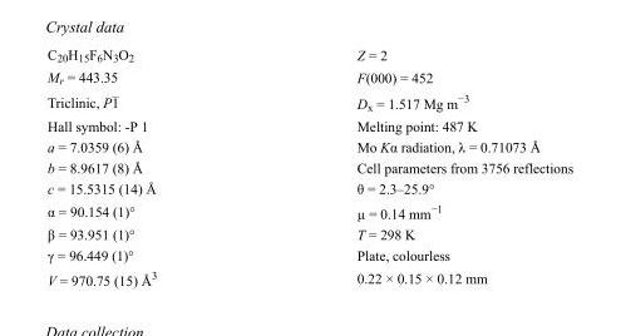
<table><tbody><tr><td>C<sub>20</sub>H<sub>15</sub>F<sub>6</sub>N<sub>3</sub>O<sub>2</sub></td><td>Z = 2</td></tr><tr><td>M<sub>r</sub> = 443.35</td><td>F(000) = 452</td></tr><tr><td>Triclinic, P1</td><td>D<sub>x</sub> = 1.517 Mg m<sup>−3</sup></td></tr><tr><td>Hall symbol: -P 1</td><td>Melting point: 487 K</td></tr><tr><td>a = 7.0359 (6) Å</td><td>Mo Kα radiation, λ = 0.71073 Å</td></tr><tr><td>b = 8.9617 (8) Å</td><td>Cell parameters from 3756 reflections</td></tr><tr><td>c = 15.5315 (14) Å</td><td>θ = 2.3–25.9°</td></tr><tr><td>α = 90.154 (1)°</td><td>µ = 0.14 mm<sup>−1</sup></td></tr><tr><td>β = 93.951 (1)°</td><td>T = 298 K</td></tr><tr><td>γ = 96.449 (1)°</td><td>Plate, colourless</td></tr><tr><td>V = 970.75 (15) Å<sup>3</sup></td><td>0.22 × 0.15 × 0.12 mm</td></tr></tbody></table>